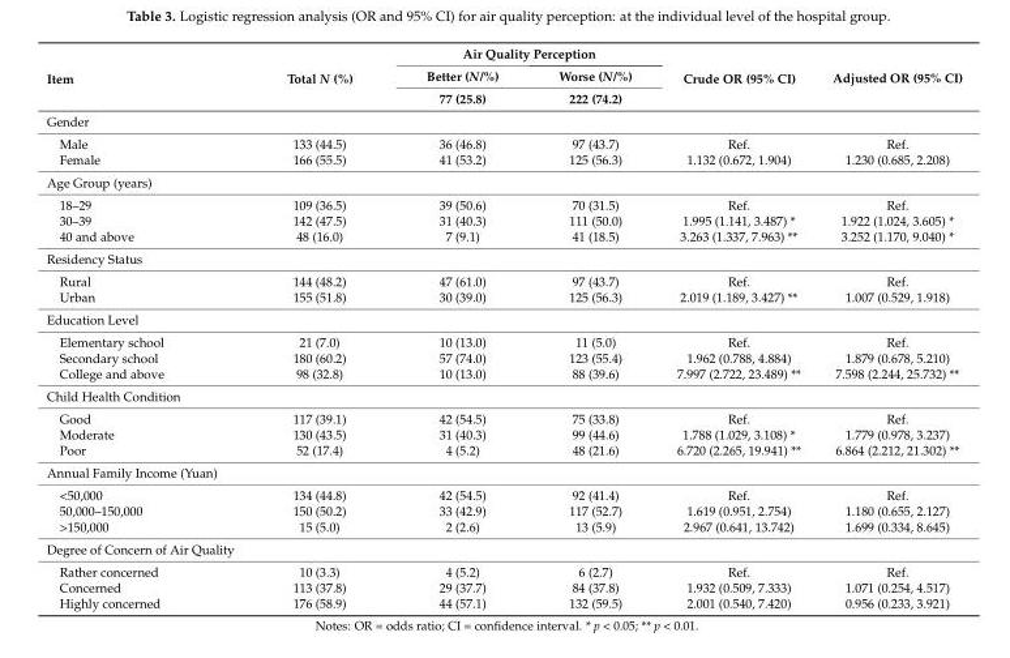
<table><thead><tr><td rowspan="3">Item</td><td rowspan="3">Total N (%)</td><td colspan="2">Air Quality Perception</td><td rowspan="3">Crude OR (95% CI)</td><td rowspan="3">Adjusted OR (95% CI)</td></tr><tr><td rowspan="2">Better (N/%) 77 (25.8)</td><td rowspan="2">Worse (N/%) 222 (74.2)</td></tr><tr></tr></thead><tbody><tr><td colspan="6">Gender</td></tr><tr><td>Male</td><td>133 (44.5)</td><td>36 (46.8)</td><td>97 (43.7)</td><td>Ref.</td><td>Ref.</td></tr><tr><td>Female</td><td>166 (55.5)</td><td>41 (53.2)</td><td>125 (56.3)</td><td>1.132 (0.672, 1.904)</td><td>1.230 (0.685, 2.208)</td></tr><tr><td colspan="6">Age Group (years)</td></tr><tr><td>18–29</td><td>109 (36.5)</td><td>39 (50.6)</td><td>70 (31.5)</td><td>Ref.</td><td>Ref.</td></tr><tr><td>30–39</td><td>142 (47.5)</td><td>31 (40.3)</td><td>111 (50.0)</td><td>1.995 (1.141, 3.487) *</td><td>1.922 (1.024, 3.605) *</td></tr><tr><td>40 and above</td><td>48 (16.0)</td><td>7 (9.1)</td><td>41 (18.5)</td><td>3.263 (1.337, 7.963) **</td><td>3.252 (1.170, 9.040) *</td></tr><tr><td colspan="6">Residency Status</td></tr><tr><td>Rural</td><td>144 (48.2)</td><td>47 (61.0)</td><td>97 (43.7)</td><td>Ref.</td><td>Ref.</td></tr><tr><td>Urban</td><td>155 (51.8)</td><td>30 (39.0)</td><td>125 (56.3)</td><td>2.019 (1.189, 3.427) **</td><td>1.007 (0.529, 1.918)</td></tr><tr><td colspan="6">Education Level</td></tr><tr><td>Elementary school</td><td>21 (7.0)</td><td>10 (13.0)</td><td>11 (5.0)</td><td>Ref.</td><td>Ref.</td></tr><tr><td>Secondary school</td><td>180 (60.2)</td><td>57 (74.0)</td><td>123 (55.4)</td><td>1.962 (0.788, 4.884)</td><td>1.879 (0.678, 5.210)</td></tr><tr><td>College and above</td><td>98 (32.8)</td><td>10 (13.0)</td><td>88 (39.6)</td><td>7.997 (2.722, 23.489) **</td><td>7.598 (2.244, 25.732) **</td></tr><tr><td colspan="6">Child Health Condition</td></tr><tr><td>Good</td><td>117 (39.1)</td><td>42 (54.5)</td><td>75 (33.8)</td><td>Ref.</td><td>Ref.</td></tr><tr><td>Moderate</td><td>130 (43.5)</td><td>31 (40.3)</td><td>99 (44.6)</td><td>1.788 (1.029, 3.108) *</td><td>1.779 (0.978, 3.237)</td></tr><tr><td>Poor</td><td>52 (17.4)</td><td>4 (5.2)</td><td>48 (21.6)</td><td>6.720 (2.265, 19.941) **</td><td>6.864 (2.212, 21.302) **</td></tr><tr><td colspan="6">Annual Family Income (Yuan)</td></tr><tr><td>&lt;50,000</td><td>134 (44.8)</td><td>42 (54.5)</td><td>92 (41.4)</td><td>Ref.</td><td>Ref.</td></tr><tr><td>50,000–150,000</td><td>150 (50.2)</td><td>33 (42.9)</td><td>117 (52.7)</td><td>1.619 (0.951, 2.754)</td><td>1.180 (0.655, 2.127)</td></tr><tr><td>&gt;150,000</td><td>15 (5.0)</td><td>2 (2.6)</td><td>13 (5.9)</td><td>2.967 (0.641, 13.742)</td><td>1.699 (0.334, 8.645)</td></tr><tr><td colspan="6">Degree of Concern of Air Quality</td></tr><tr><td>Rather concerned</td><td>10 (3.3)</td><td>4 (5.2)</td><td>6 (2.7)</td><td>Ref.</td><td>Ref.</td></tr><tr><td>Concerned</td><td>113 (37.8)</td><td>29 (37.7)</td><td>84 (37.8)</td><td>1.932 (0.509, 7.333)</td><td>1.071 (0.254, 4.517)</td></tr><tr><td>Highly concerned</td><td>176 (58.9)</td><td>44 (57.1)</td><td>132 (59.5)</td><td>2.001 (0.540, 7.420)</td><td>0.956 (0.233, 3.921)</td></tr></tbody></table>